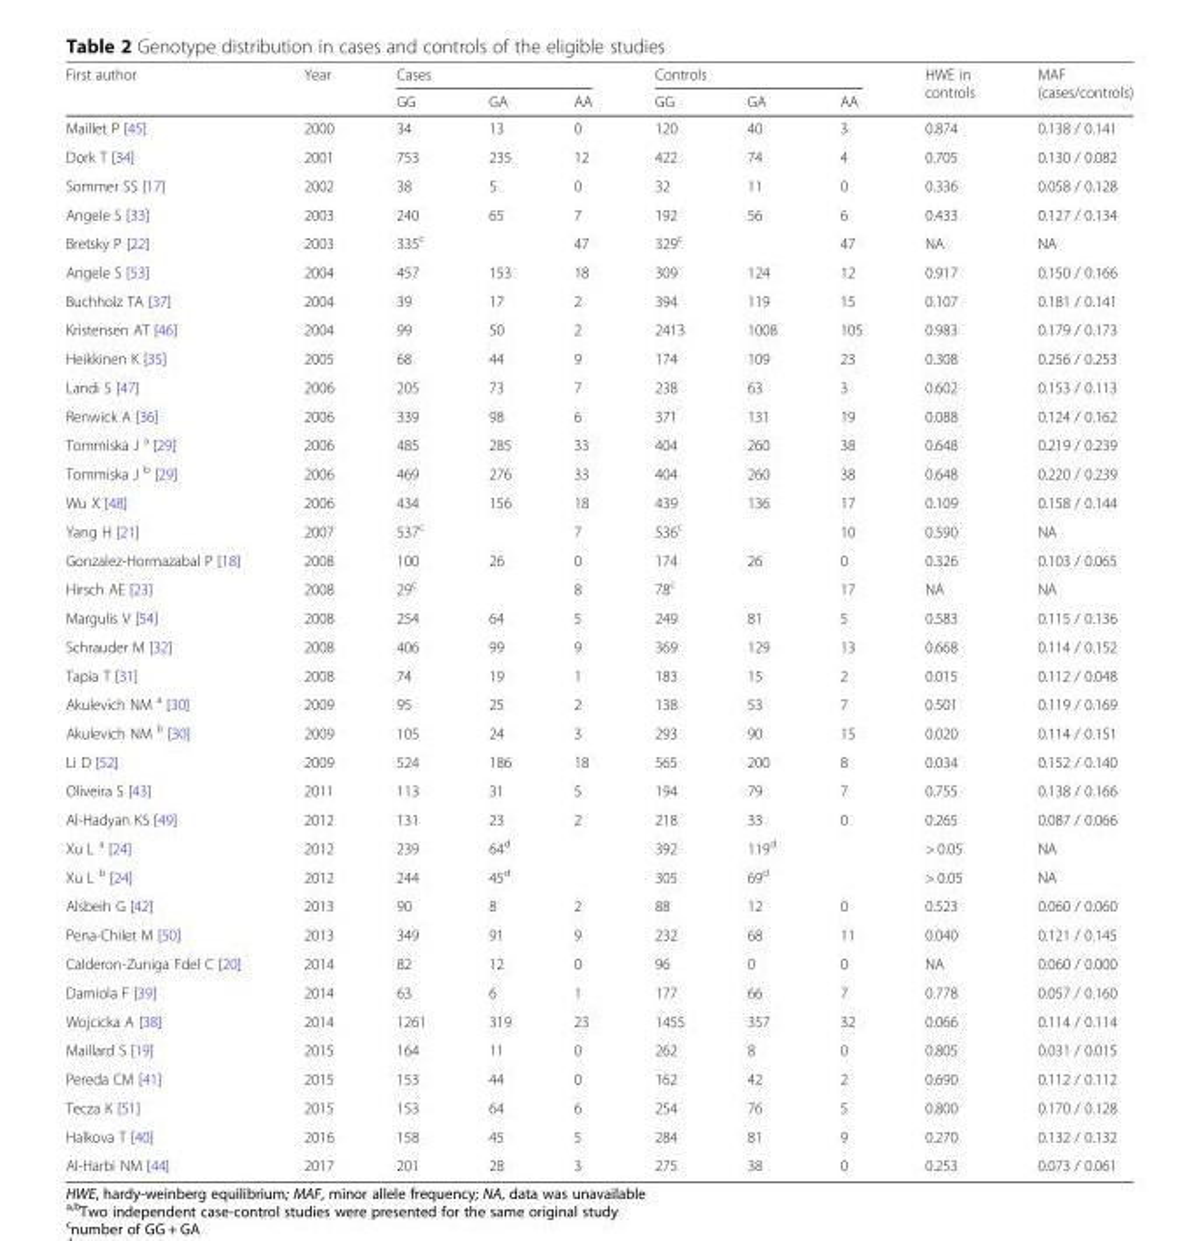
<table><thead><tr><td rowspan="2">First author</td><td rowspan="2">Year</td><td colspan="3">Cases</td><td colspan="3">Controls</td><td rowspan="2">HWE in controls</td><td rowspan="2">MAF (cases/controls)</td></tr><tr><td>GG</td><td>GA</td><td>AA</td><td>GG</td><td>GA</td><td>AA</td></tr></thead><tbody><tr><td>Maillet P [45]</td><td>2000</td><td>34</td><td>13</td><td>0</td><td>120</td><td>40</td><td>3</td><td>0.874</td><td>0.138 / 0.141</td></tr><tr><td>Dork T [34]</td><td>2001</td><td>753</td><td>235</td><td>12</td><td>422</td><td>74</td><td>4</td><td>0.705</td><td>0.130 / 0.082</td></tr><tr><td>Sommer SS [17]</td><td>2002</td><td>38</td><td>5</td><td>0</td><td>32</td><td>11</td><td>0</td><td>0.336</td><td>0.058 / 0.128</td></tr><tr><td>Angele S [33]</td><td>2003</td><td>240</td><td>65</td><td>7</td><td>192</td><td>56</td><td>6</td><td>0.433</td><td>0.127 / 0.134</td></tr><tr><td>Bretsky P [22]</td><td>2003</td><td>335<sup>c</sup></td><td></td><td>47</td><td>329<sup>c</sup></td><td></td><td>47</td><td>NA</td><td>NA</td></tr><tr><td>Angele S [53]</td><td>2004</td><td>457</td><td>153</td><td>18</td><td>309</td><td>124</td><td>12</td><td>0.917</td><td>0.150 / 0.166</td></tr><tr><td>Buchholz TA [37]</td><td>2004</td><td>39</td><td>17</td><td>2</td><td>394</td><td>119</td><td>15</td><td>0.107</td><td>0.181 / 0.141</td></tr><tr><td>Kristensen AT [46]</td><td>2004</td><td>99</td><td>50</td><td>2</td><td>2413</td><td>1008</td><td>105</td><td>0.983</td><td>0.179 / 0.173</td></tr><tr><td>Heikkinen K [35]</td><td>2005</td><td>68</td><td>44</td><td>9</td><td>174</td><td>109</td><td>23</td><td>0.308</td><td>0.256 / 0.253</td></tr><tr><td>Landi S [47]</td><td>2006</td><td>205</td><td>73</td><td>7</td><td>238</td><td>63</td><td>3</td><td>0.602</td><td>0.153 / 0.113</td></tr><tr><td>Renwick A [36]</td><td>2006</td><td>339</td><td>98</td><td>6</td><td>371</td><td>131</td><td>19</td><td>0.088</td><td>0.124 / 0.162</td></tr><tr><td>Tommiska J <sup>a</sup> [29]</td><td>2006</td><td>485</td><td>285</td><td>33</td><td>404</td><td>260</td><td>38</td><td>0.648</td><td>0.219 / 0.239</td></tr><tr><td>Tommiska J <sup>b</sup> [29]</td><td>2006</td><td>469</td><td>276</td><td>33</td><td>404</td><td>260</td><td>38</td><td>0.648</td><td>0.220 / 0.239</td></tr><tr><td>Wu X [48]</td><td>2006</td><td>434</td><td>156</td><td>18</td><td>439</td><td>136</td><td>17</td><td>0.109</td><td>0.158 / 0.144</td></tr><tr><td>Yang H [21]</td><td>2007</td><td>537<sup>c</sup></td><td></td><td>7</td><td>536<sup>c</sup></td><td></td><td>10</td><td>0.590</td><td>NA</td></tr><tr><td>Gonzalez-Hormazabal P [18]</td><td>2008</td><td>100</td><td>26</td><td>0</td><td>174</td><td>26</td><td>0</td><td>0.326</td><td>0.103 / 0.065</td></tr><tr><td>Hirsch AE [23]</td><td>2008</td><td>29<sup>c</sup></td><td></td><td>8</td><td>78<sup>c</sup></td><td></td><td>17</td><td>NA</td><td>NA</td></tr><tr><td>Margulis V [54]</td><td>2008</td><td>254</td><td>64</td><td>5</td><td>249</td><td>81</td><td>5</td><td>0.583</td><td>0.115 / 0.136</td></tr><tr><td>Schrauder M [32]</td><td>2008</td><td>406</td><td>99</td><td>9</td><td>369</td><td>129</td><td>13</td><td>0.668</td><td>0.114 / 0.152</td></tr><tr><td>Tapia T [31]</td><td>2008</td><td>74</td><td>19</td><td>1</td><td>183</td><td>15</td><td>2</td><td>0.015</td><td>0.112 / 0.048</td></tr><tr><td>Akulevich NM <sup>a</sup> [30]</td><td>2009</td><td>95</td><td>25</td><td>2</td><td>138</td><td>53</td><td>7</td><td>0.501</td><td>0.119 / 0.169</td></tr><tr><td>Akulevich NM <sup>b</sup> [30]</td><td>2009</td><td>105</td><td>24</td><td>3</td><td>293</td><td>90</td><td>15</td><td>0.020</td><td>0.114 / 0.151</td></tr><tr><td>Li D [52]</td><td>2009</td><td>524</td><td>186</td><td>18</td><td>565</td><td>200</td><td>8</td><td>0.034</td><td>0.152 / 0.140</td></tr><tr><td>Oliveira S [43]</td><td>2011</td><td>113</td><td>31</td><td>5</td><td>194</td><td>79</td><td>7</td><td>0.755</td><td>0.138 / 0.166</td></tr><tr><td>Al-Hadyan KS [49]</td><td>2012</td><td>131</td><td>23</td><td>2</td><td>218</td><td>33</td><td>0</td><td>0.265</td><td>0.087 / 0.066</td></tr><tr><td>Xu L <sup>a</sup> [24]</td><td>2012</td><td>239</td><td>64<sup>d</sup></td><td></td><td>392</td><td>119<sup>d</sup></td><td></td><td>&gt; 0.05</td><td>NA</td></tr><tr><td>Xu L <sup>b</sup> [24]</td><td>2012</td><td>244</td><td>45<sup>d</sup></td><td></td><td>305</td><td>69<sup>d</sup></td><td></td><td>&gt; 0.05</td><td>NA</td></tr><tr><td>Alsbeih G [42]</td><td>2013</td><td>90</td><td>8</td><td>2</td><td>88</td><td>12</td><td>0</td><td>0.523</td><td>0.060 / 0.060</td></tr><tr><td>Pena-Chilet M [50]</td><td>2013</td><td>349</td><td>91</td><td>9</td><td>232</td><td>68</td><td>11</td><td>0.040</td><td>0.121 / 0.145</td></tr><tr><td>Calderon-Zuniga Fdel C [20]</td><td>2014</td><td>82</td><td>12</td><td>0</td><td>96</td><td>0</td><td>0</td><td>NA</td><td>0.060 / 0.000</td></tr><tr><td>Damiola F [39]</td><td>2014</td><td>63</td><td>6</td><td>1</td><td>177</td><td>66</td><td>7</td><td>0.778</td><td>0.057 / 0.160</td></tr><tr><td>Wojcicka A [38]</td><td>2014</td><td>1261</td><td>319</td><td>23</td><td>1455</td><td>357</td><td>32</td><td>0.066</td><td>0.114 / 0.114</td></tr><tr><td>Maillard S [19]</td><td>2015</td><td>164</td><td>11</td><td>0</td><td>262</td><td>8</td><td>0</td><td>0.805</td><td>0.031 / 0.015</td></tr><tr><td>Pereda CM [41]</td><td>2015</td><td>153</td><td>44</td><td>0</td><td>162</td><td>42</td><td>2</td><td>0.690</td><td>0.112 / 0.112</td></tr><tr><td>Tecza K [51]</td><td>2015</td><td>153</td><td>64</td><td>6</td><td>254</td><td>76</td><td>5</td><td>0.800</td><td>0.170 / 0.128</td></tr><tr><td>Halkova T [40]</td><td>2016</td><td>158</td><td>45</td><td>5</td><td>284</td><td>81</td><td>9</td><td>0.270</td><td>0.132 / 0.132</td></tr><tr><td>Al-Harbi NM [44]</td><td>2017</td><td>201</td><td>28</td><td>3</td><td>275</td><td>38</td><td>0</td><td>0.253</td><td>0.073 / 0.061</td></tr></tbody></table>